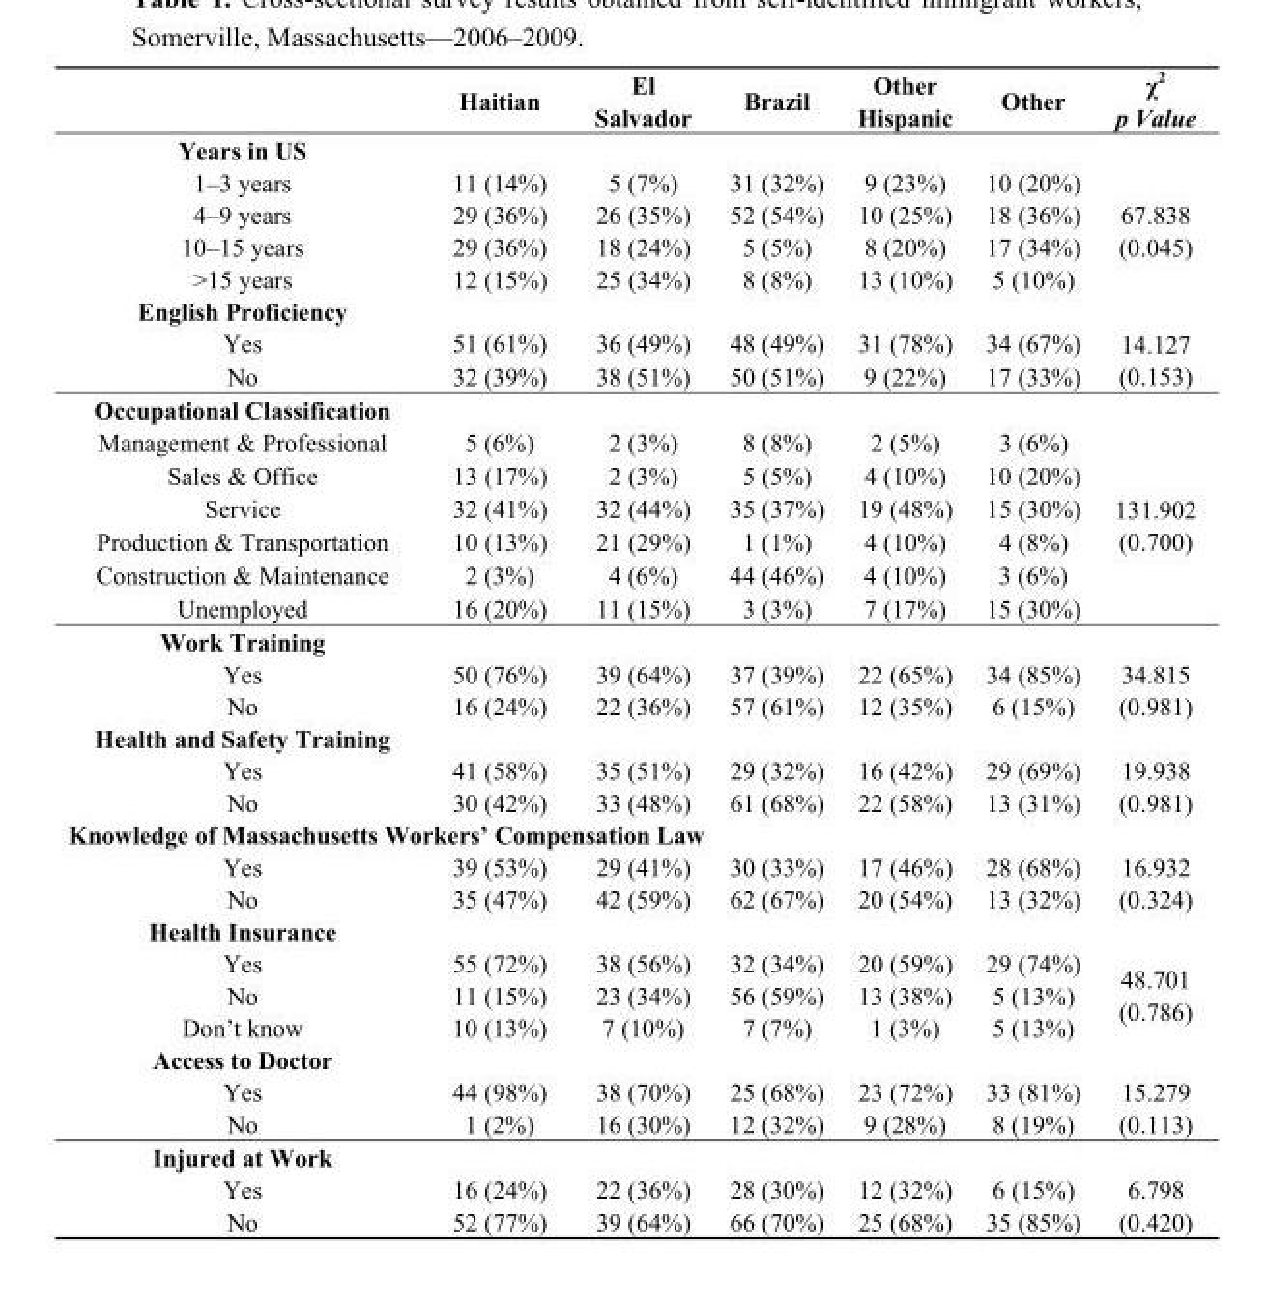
<table><thead><tr><td rowspan="2"></td><td rowspan="2">Haitian</td><td rowspan="2">El Salvador</td><td rowspan="2">Brazil</td><td rowspan="2">Other Hispanic</td><td rowspan="2">Other</td><td rowspan="2">χ<sup>2</sup> p Value</td></tr><tr></tr></thead><tbody><tr><td colspan="7">Years in US</td></tr><tr><td>1–3 years</td><td>11 (14%)</td><td>5 (7%)</td><td>31 (32%)</td><td>9 (23%)</td><td>10 (20%)</td><td rowspan="4">67.838 (0.045)</td></tr><tr><td>4–9 years</td><td>29 (36%)</td><td>26 (35%)</td><td>52 (54%)</td><td>10 (25%)</td><td>18 (36%)</td></tr><tr><td>10–15 years</td><td>29 (36%)</td><td>18 (24%)</td><td>5 (5%)</td><td>8 (20%)</td><td>17 (34%)</td></tr><tr><td>&gt;15 years</td><td>12 (15%)</td><td>25 (34%)</td><td>8 (8%)</td><td>13 (10%)</td><td>5 (10%)</td></tr><tr><td colspan="7">English Proficiency</td></tr><tr><td>Yes</td><td>51 (61%)</td><td>36 (49%)</td><td>48 (49%)</td><td>31 (78%)</td><td>34 (67%)</td><td rowspan="2">14.127 (0.153)</td></tr><tr><td>No</td><td>32 (39%)</td><td>38 (51%)</td><td>50 (51%)</td><td>9 (22%)</td><td>17 (33%)</td></tr><tr><td colspan="7">Occupational Classification</td></tr><tr><td>Management &amp; Professional</td><td>5 (6%)</td><td>2 (3%)</td><td>8 (8%)</td><td>2 (5%)</td><td>3 (6%)</td><td rowspan="6">131.902 (0.700)</td></tr><tr><td>Sales &amp; Office</td><td>13 (17%)</td><td>2 (3%)</td><td>5 (5%)</td><td>4 (10%)</td><td>10 (20%)</td></tr><tr><td>Service</td><td>32 (41%)</td><td>32 (44%)</td><td>35 (37%)</td><td>19 (48%)</td><td>15 (30%)</td></tr><tr><td>Production &amp; Transportation</td><td>10 (13%)</td><td>21 (29%)</td><td>1 (1%)</td><td>4 (10%)</td><td>4 (8%)</td></tr><tr><td>Construction &amp; Maintenance</td><td>2 (3%)</td><td>4 (6%)</td><td>44 (46%)</td><td>4 (10%)</td><td>3 (6%)</td></tr><tr><td>Unemployed</td><td>16 (20%)</td><td>11 (15%)</td><td>3 (3%)</td><td>7 (17%)</td><td>15 (30%)</td></tr><tr><td colspan="7">Work Training</td></tr><tr><td>Yes</td><td>50 (76%)</td><td>39 (64%)</td><td>37 (39%)</td><td>22 (65%)</td><td>34 (85%)</td><td rowspan="2">34.815 (0.981)</td></tr><tr><td>No</td><td>16 (24%)</td><td>22 (36%)</td><td>57 (61%)</td><td>12 (35%)</td><td>6 (15%)</td></tr><tr><td colspan="7">Health and Safety Training</td></tr><tr><td>Yes</td><td>41 (58%)</td><td>35 (51%)</td><td>29 (32%)</td><td>16 (42%)</td><td>29 (69%)</td><td rowspan="2">19.938 (0.981)</td></tr><tr><td>No</td><td>30 (42%)</td><td>33 (48%)</td><td>61 (68%)</td><td>22 (58%)</td><td>13 (31%)</td></tr><tr><td colspan="7">Knowledge of Massachusetts Workers’ Compensation Law</td></tr><tr><td>Yes</td><td>39 (53%)</td><td>29 (41%)</td><td>30 (33%)</td><td>17 (46%)</td><td>28 (68%)</td><td rowspan="2">16.932 (0.324)</td></tr><tr><td>No</td><td>35 (47%)</td><td>42 (59%)</td><td>62 (67%)</td><td>20 (54%)</td><td>13 (32%)</td></tr><tr><td colspan="7">Health Insurance</td></tr><tr><td>Yes</td><td>55 (72%)</td><td>38 (56%)</td><td>32 (34%)</td><td>20 (59%)</td><td>29 (74%)</td><td rowspan="3">48.701 (0.786)</td></tr><tr><td>No</td><td>11 (15%)</td><td>23 (34%)</td><td>56 (59%)</td><td>13 (38%)</td><td>5 (13%)</td></tr><tr><td>Don’t know</td><td>10 (13%)</td><td>7 (10%)</td><td>7 (7%)</td><td>1 (3%)</td><td>5 (13%)</td></tr><tr><td colspan="7">Access to Doctor</td></tr><tr><td>Yes</td><td>44 (98%)</td><td>38 (70%)</td><td>25 (68%)</td><td>23 (72%)</td><td>33 (81%)</td><td rowspan="2">15.279 (0.113)</td></tr><tr><td>No</td><td>1 (2%)</td><td>16 (30%)</td><td>12 (32%)</td><td>9 (28%)</td><td>8 (19%)</td></tr><tr><td colspan="7">Injured at Work</td></tr><tr><td>Yes</td><td>16 (24%)</td><td>22 (36%)</td><td>28 (30%)</td><td>12 (32%)</td><td>6 (15%)</td><td rowspan="2">6.798 (0.420)</td></tr><tr><td>No</td><td>52 (77%)</td><td>39 (64%)</td><td>66 (70%)</td><td>25 (68%)</td><td>35 (85%)</td></tr></tbody></table>